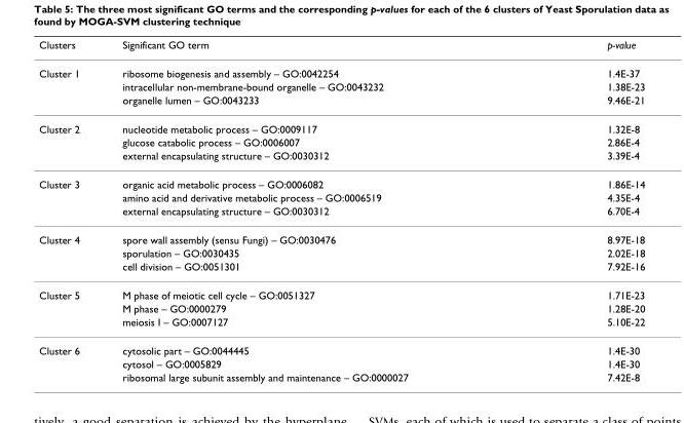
<table><thead><tr><td>Clusters</td><td>Significant GO term</td><td>p-value</td></tr></thead><tbody><tr><td rowspan="3">Cluster 1</td><td>ribosome biogenesis and assembly – GO:0042254</td><td>1.4E-37</td></tr><tr><td>intracellular non-membrane-bound organelle – GO:0043232</td><td>1.38E-23</td></tr><tr><td>organelle lumen – GO:0043233</td><td>9.46E-21</td></tr><tr><td rowspan="3">Cluster 2</td><td>nucleotide metabolic process – GO:0009117</td><td>1.32E-8</td></tr><tr><td>glucose catabolic process – GO:0006007</td><td>2.86E-4</td></tr><tr><td>external encapsulating structure – GO:0030312</td><td>3.39E-4</td></tr><tr><td rowspan="3">Cluster 3</td><td>organic acid metabolic process – GO:0006082</td><td>1.86E-14</td></tr><tr><td>amino acid and derivative metabolic process – GO:0006519</td><td>4.35E-4</td></tr><tr><td>external encapsulating structure – GO:0030312</td><td>6.70E-4</td></tr><tr><td rowspan="3">Cluster 4</td><td>spore wall assembly (sensu Fungi) – GO:0030476</td><td>8.97E-18</td></tr><tr><td>sporulation – GO:0030435</td><td>2.02E-18</td></tr><tr><td>cell division – GO:0051301</td><td>7.92E-16</td></tr><tr><td rowspan="3">Cluster 5</td><td>M phase of meiotic cell cycle – GO:0051327</td><td>1.71E-23</td></tr><tr><td>M phase – GO:0000279</td><td>1.28E-20</td></tr><tr><td>meiosis I – GO:0007127</td><td>5.10E-22</td></tr><tr><td rowspan="3">Cluster 6</td><td>cytosolic part – GO:0044445</td><td>1.4E-30</td></tr><tr><td>cytosol – GO:0005829</td><td>1.4E-30</td></tr><tr><td>ribosomal large subunit assembly and maintenance – GO:0000027</td><td>7.42E-8</td></tr></tbody></table>